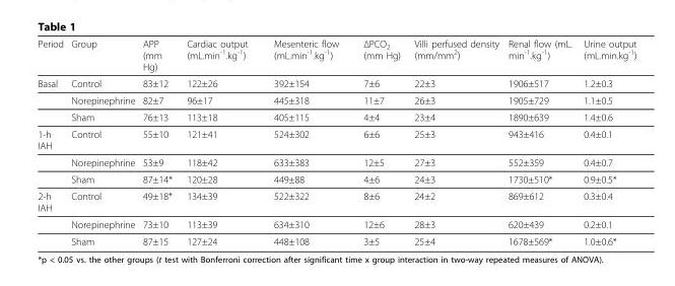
<table><thead><tr><td>Period</td><td>Group</td><td>APP (mm Hg)</td><td>Cardiac output (mL.min<sup>-1</sup>.kg<sup>-1</sup>)</td><td>Mesenteric flow (mL.min<sup>-1</sup>.kg<sup>-1</sup>)</td><td>ΔPCO<sub>2</sub> (mm Hg)</td><td>Villi perfused density (mm/mm<sup>2</sup>)</td><td>Renal flow (mL. min<sup>-1</sup>.kg<sup>-1</sup>)</td><td>Urine output (mL.min.kg<sup>-1</sup>)</td></tr></thead><tbody><tr><td rowspan="3">Basal</td><td>Control</td><td>83±12</td><td>122±26</td><td>392±154</td><td>7±6</td><td>22±3</td><td>1906±517</td><td>1.2±0.3</td></tr><tr><td>Norepinephrine</td><td>82±7</td><td>96±17</td><td>445±318</td><td>11±7</td><td>26±3</td><td>1905±729</td><td>1.1±0.5</td></tr><tr><td>Sham</td><td>76±13</td><td>113±18</td><td>405±115</td><td>4±4</td><td>23±4</td><td>1890±639</td><td>1.4±0.6</td></tr><tr><td rowspan="3">1-h IAH</td><td>Control</td><td>55±10</td><td>121±41</td><td>524±302</td><td>6±6</td><td>25±3</td><td>943±416</td><td>0.4±0.1</td></tr><tr><td>Norepinephrine</td><td>53±9</td><td>118±42</td><td>633±383</td><td>12±5</td><td>27±3</td><td>552±359</td><td>0.4±0.7</td></tr><tr><td>Sham</td><td>87±14*</td><td>120±28</td><td>449±88</td><td>4±6</td><td>24±3</td><td>1730±510*</td><td>0.9±0.5*</td></tr><tr><td rowspan="3">2-h IAH</td><td>Control</td><td>49±18*</td><td>134±39</td><td>522±322</td><td>8±6</td><td>24±2</td><td>869±612</td><td>0.3±0.4</td></tr><tr><td>Norepinephrine</td><td>73±10</td><td>113±39</td><td>634±310</td><td>12±6</td><td>28±3</td><td>620±439</td><td>0.2±0.1</td></tr><tr><td>Sham</td><td>87±15</td><td>127±24</td><td>448±108</td><td>3±5</td><td>25±4</td><td>1678±569*</td><td>1.0±0.6*</td></tr></tbody></table>